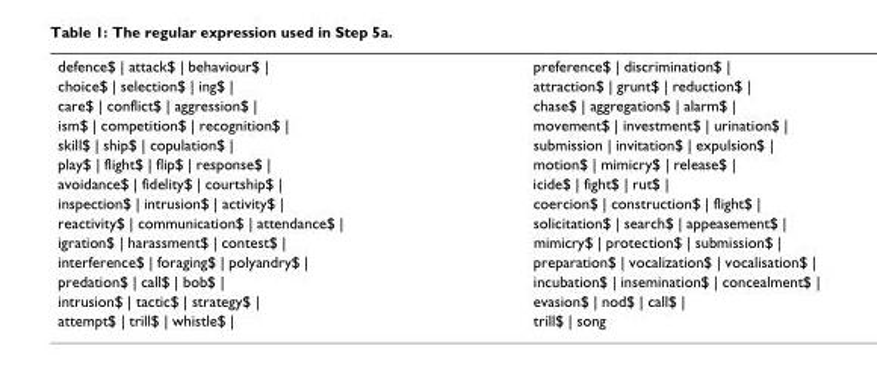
<table><tbody><tr><td>defence$ | attack$ | behaviour$ |</td><td>preference$ | discrimination$ |</td></tr><tr><td>choice$ | selection$ | ing$ |</td><td>attraction$ | grunt$ | reduction$ |</td></tr><tr><td>care$ | conflict$ | aggression$ |</td><td>chase$ | aggregation$ | alarm$ |</td></tr><tr><td>ism$ | competition$ | recognition$ |</td><td>movement$ | investment$ | urination$ |</td></tr><tr><td>skill$ | ship$ | copulation$ |</td><td>submission | invitation$ | expulsion$ |</td></tr><tr><td>play$ | flight$ | flip$ | response$ |</td><td>motion$ | mimicry$ | release$ |</td></tr><tr><td>avoidance$ | fidelity$ | courtship$ |</td><td>icide$ | fight$ | rut$ |</td></tr><tr><td>inspection$ | intrusion$ | activity$ |</td><td>coercion$ | construction$ | flight$ |</td></tr><tr><td>reactivity$ | communication$ | attendance$ |</td><td>solicitation$ | search$ | appeasement$ |</td></tr><tr><td>igration$ | harassment$ | contest$ |</td><td>mimicry$ | protection$ | submission$ |</td></tr><tr><td>interference$ | foraging$ | polyandry$ |</td><td>preparation$ | vocalization$ | vocalisation$ |</td></tr><tr><td>predation$ | call$ | bob$ |</td><td>incubation$ | insemination$ | concealment$ |</td></tr><tr><td>intrusion$ | tactic$ | strategy$ |</td><td>evasion$ | nod$ | call$ |</td></tr><tr><td>attempt$ | trill$ | whistle$ |</td><td>trill$ | song</td></tr></tbody></table>